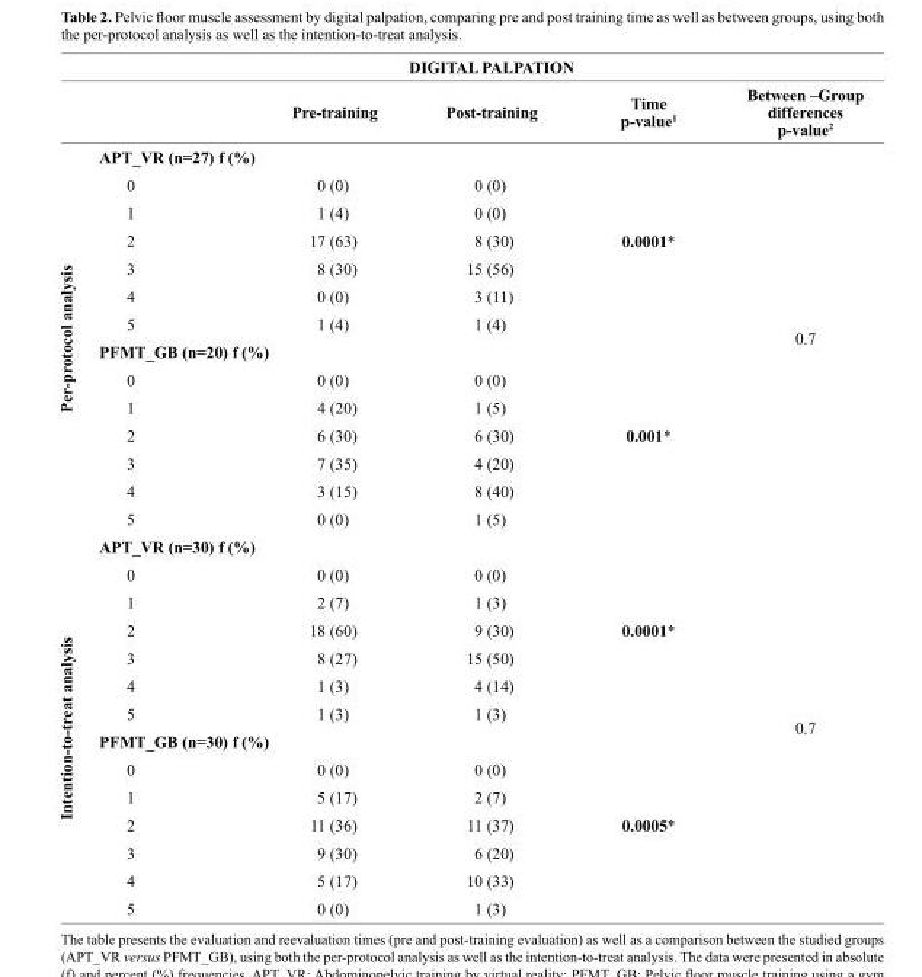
<table><thead><tr><td rowspan="2"></td><td colspan="5">DIGITAL PALPATION</td></tr><tr><td></td><td>Pre-training</td><td>Post-training</td><td>Time p-value1</td><td>Between –Group differences p-value2</td></tr></thead><tbody><tr><td rowspan="14">Per-protocol analysis</td><td>APT_VR (n=27) f (%)</td><td></td><td></td><td rowspan="7">0.0001*</td><td rowspan="14">0.7</td></tr><tr><td>0</td><td>0 (0)</td><td>0 (0)</td></tr><tr><td>1</td><td>1 (4)</td><td>0 (0)</td></tr><tr><td>2</td><td>17 (63)</td><td>8 (30)</td></tr><tr><td>3</td><td>8 (30)</td><td>15 (56)</td></tr><tr><td>4</td><td>0 (0)</td><td>3 (11)</td></tr><tr><td>5</td><td>1 (4)</td><td>1 (4)</td></tr><tr><td>PFMT_GB (n=20) f (%)</td><td></td><td></td><td rowspan="7">0.001*</td></tr><tr><td>0</td><td>0 (0)</td><td>0 (0)</td></tr><tr><td>1</td><td>4 (20)</td><td>1 (5)</td></tr><tr><td>2</td><td>6 (30)</td><td>6 (30)</td></tr><tr><td>3</td><td>7 (35)</td><td>4 (20)</td></tr><tr><td>4</td><td>3 (15)</td><td>8 (40)</td></tr><tr><td>5</td><td>0 (0)</td><td>1 (5)</td></tr><tr><td rowspan="14">Intention-to-treat analysis</td><td>APT_VR (n=30) f (%)</td><td></td><td></td><td rowspan="7">0.0001*</td><td rowspan="14">0.7</td></tr><tr><td>0</td><td>0 (0)</td><td>0 (0)</td></tr><tr><td>1</td><td>2 (7)</td><td>1 (3)</td></tr><tr><td>2</td><td>18 (60)</td><td>9 (30)</td></tr><tr><td>3</td><td>8 (27)</td><td>15 (50)</td></tr><tr><td>4</td><td>1 (3)</td><td>4 (14)</td></tr><tr><td>5</td><td>1 (3)</td><td>1 (3)</td></tr><tr><td>PFMT_GB (n=30) f (%)</td><td></td><td></td><td rowspan="7">0.0005*</td></tr><tr><td>0</td><td>0 (0)</td><td>0 (0)</td></tr><tr><td>1</td><td>5 (17)</td><td>2 (7)</td></tr><tr><td>2</td><td>11 (36)</td><td>11 (37)</td></tr><tr><td>3</td><td>9 (30)</td><td>6 (20)</td></tr><tr><td>4</td><td>5 (17)</td><td>10 (33)</td></tr><tr><td>5</td><td>0 (0)</td><td>1 (3)</td></tr></tbody></table>